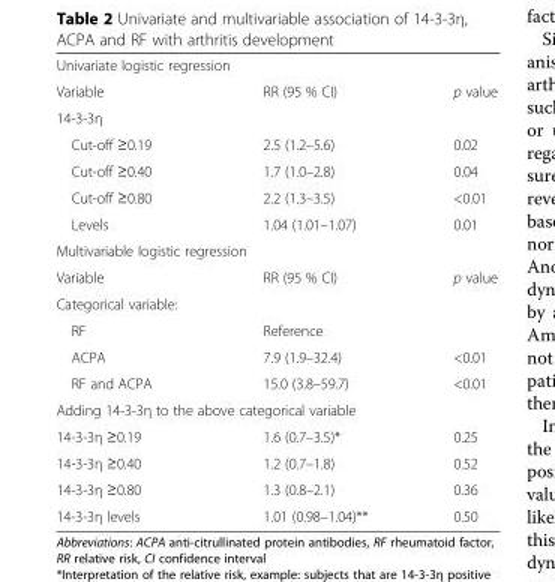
<table><tbody><tr><td colspan="3">Univariate logistic regression</td></tr><tr><td>Variable</td><td>RR (95 % CI)</td><td>p value</td></tr><tr><td colspan="3">14-3-3η</td></tr><tr><td>Cut-off ≥0.19</td><td>2.5 (1.2–5.6)</td><td>0.02</td></tr><tr><td>Cut-off ≥0.40</td><td>1.7 (1.0–2.8)</td><td>0.04</td></tr><tr><td>Cut-off ≥0.80</td><td>2.2 (1.3–3.5)</td><td>&lt;0.01</td></tr><tr><td>Levels</td><td>1.04 (1.01–1.07)</td><td>0.01</td></tr><tr><td colspan="3">Multivariable logistic regression</td></tr><tr><td>Variable</td><td>RR (95 % CI)</td><td>p value</td></tr><tr><td colspan="3">Categorical variable:</td></tr><tr><td>RF</td><td>Reference</td><td></td></tr><tr><td>ACPA</td><td>7.9 (1.9–32.4)</td><td>&lt;0.01</td></tr><tr><td>RF and ACPA</td><td>15.0 (3.8–59.7)</td><td>&lt;0.01</td></tr><tr><td colspan="3">Adding 14-3-3η to the above categorical variable</td></tr><tr><td>14-3-3η ≥0.19</td><td>1.6 (0.7–3.5)*</td><td>0.25</td></tr><tr><td>14-3-3η ≥0.40</td><td>1.2 (0.7–1.8)</td><td>0.52</td></tr><tr><td>14-3-3η ≥0.80</td><td>1.3 (0.8–2.1)</td><td>0.36</td></tr><tr><td>14-3-3η levels</td><td>1.01 (0.98–1.04)**</td><td>0.50</td></tr></tbody></table>